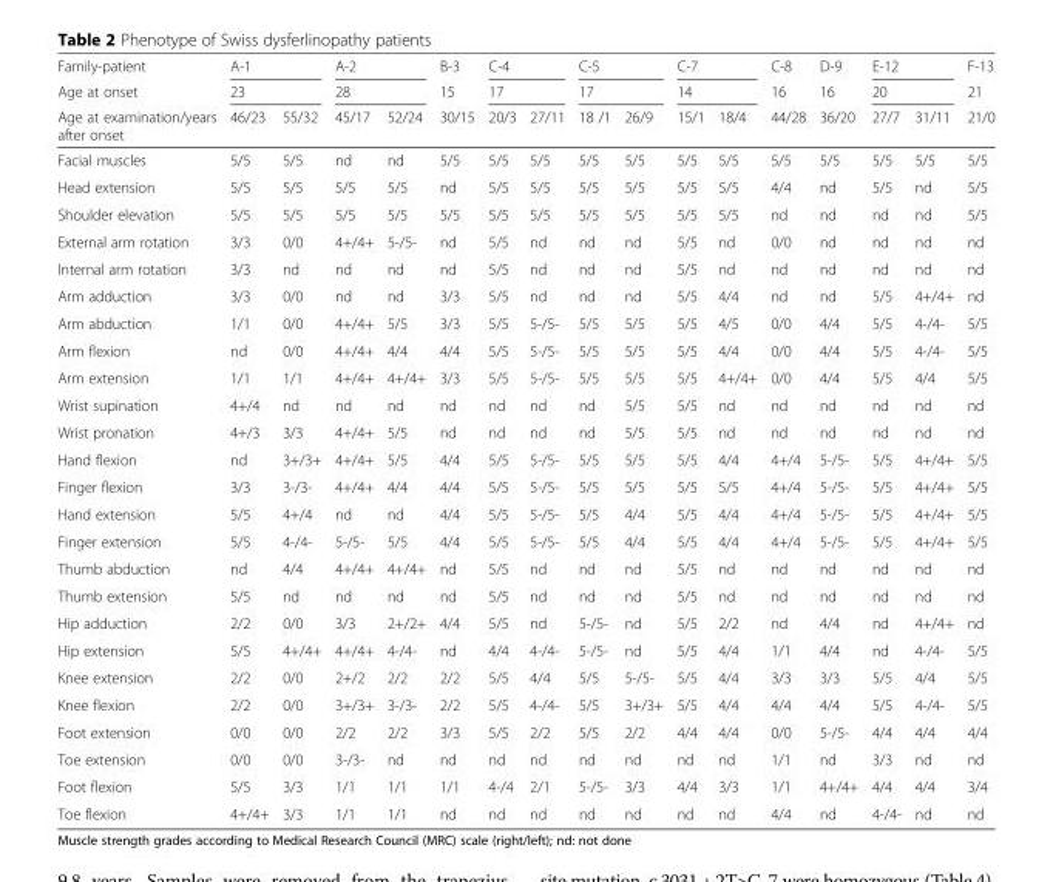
<table><thead><tr><td rowspan="3">Family-patient Age at onset Age at examination/years after onset</td><td rowspan="2" colspan="2">A-1 23</td><td rowspan="2" colspan="2">A-2 28</td><td rowspan="3">B-3 15 30/15</td><td rowspan="2" colspan="2">C-4 17</td><td rowspan="2" colspan="2">C-5 17</td><td rowspan="2" colspan="2">C-7 14</td><td rowspan="3">C-8 16 44/28</td><td rowspan="3">D-9 16 36/20</td><td rowspan="2" colspan="2">E-12 20</td><td rowspan="3">F-13 21 21/0</td></tr><tr></tr><tr><td>46/23</td><td>55/32</td><td>45/17</td><td>52/24</td><td>20/3</td><td>27/11</td><td>18 /1</td><td>26/9</td><td>15/1</td><td>18/4</td><td>27/7</td><td>31/11</td></tr></thead><tbody><tr><td>Facial muscles</td><td>5/5</td><td>5/5</td><td>nd</td><td>nd</td><td>5/5</td><td>5/5</td><td>5/5</td><td>5/5</td><td>5/5</td><td>5/5</td><td>5/5</td><td>5/5</td><td>5/5</td><td>5/5</td><td>5/5</td><td>5/5</td></tr><tr><td>Head extension</td><td>5/5</td><td>5/5</td><td>5/5</td><td>5/5</td><td>nd</td><td>5/5</td><td>5/5</td><td>5/5</td><td>5/5</td><td>5/5</td><td>5/5</td><td>4/4</td><td>nd</td><td>5/5</td><td>nd</td><td>5/5</td></tr><tr><td>Shoulder elevation</td><td>5/5</td><td>5/5</td><td>5/5</td><td>5/5</td><td>5/5</td><td>5/5</td><td>5/5</td><td>5/5</td><td>5/5</td><td>5/5</td><td>5/5</td><td>nd</td><td>nd</td><td>nd</td><td>nd</td><td>5/5</td></tr><tr><td>External arm rotation</td><td>3/3</td><td>0/0</td><td>4+/4+</td><td>5-/5-</td><td>nd</td><td>5/5</td><td>nd</td><td>nd</td><td>nd</td><td>5/5</td><td>nd</td><td>0/0</td><td>nd</td><td>nd</td><td>nd</td><td>nd</td></tr><tr><td>Internal arm rotation</td><td>3/3</td><td>nd</td><td>nd</td><td>nd</td><td>nd</td><td>5/5</td><td>nd</td><td>nd</td><td>nd</td><td>5/5</td><td>nd</td><td>nd</td><td>nd</td><td>nd</td><td>nd</td><td>nd</td></tr><tr><td>Arm adduction</td><td>3/3</td><td>0/0</td><td>nd</td><td>nd</td><td>3/3</td><td>5/5</td><td>nd</td><td>nd</td><td>nd</td><td>5/5</td><td>4/4</td><td>nd</td><td>nd</td><td>5/5</td><td>4+/4+</td><td>nd</td></tr><tr><td>Arm abduction</td><td>1/1</td><td>0/0</td><td>4+/4+</td><td>5/5</td><td>3/3</td><td>5/5</td><td>5-/5-</td><td>5/5</td><td>5/5</td><td>5/5</td><td>4/5</td><td>0/0</td><td>4/4</td><td>5/5</td><td>4-/4-</td><td>5/5</td></tr><tr><td>Arm flexion</td><td>nd</td><td>0/0</td><td>4+/4+</td><td>4/4</td><td>4/4</td><td>5/5</td><td>5-/5-</td><td>5/5</td><td>5/5</td><td>5/5</td><td>4/4</td><td>0/0</td><td>4/4</td><td>5/5</td><td>4-/4-</td><td>5/5</td></tr><tr><td>Arm extension</td><td>1/1</td><td>1/1</td><td>4+/4+</td><td>4+/4+</td><td>3/3</td><td>5/5</td><td>5-/5-</td><td>5/5</td><td>5/5</td><td>5/5</td><td>4+/4+</td><td>0/0</td><td>4/4</td><td>5/5</td><td>4/4</td><td>5/5</td></tr><tr><td>Wrist supination</td><td>4+/4</td><td>nd</td><td>nd</td><td>nd</td><td>nd</td><td>nd</td><td>nd</td><td>nd</td><td>5/5</td><td>5/5</td><td>nd</td><td>nd</td><td>nd</td><td>nd</td><td>nd</td><td>nd</td></tr><tr><td>Wrist pronation</td><td>4+/3</td><td>3/3</td><td>4+/4+</td><td>5/5</td><td>nd</td><td>nd</td><td>nd</td><td>nd</td><td>5/5</td><td>5/5</td><td>nd</td><td>nd</td><td>nd</td><td>nd</td><td>nd</td><td>nd</td></tr><tr><td>Hand flexion</td><td>nd</td><td>3+/3+</td><td>4+/4+</td><td>5/5</td><td>4/4</td><td>5/5</td><td>5-/5-</td><td>5/5</td><td>5/5</td><td>5/5</td><td>4/4</td><td>4+/4</td><td>5-/5-</td><td>5/5</td><td>4+/4+</td><td>5/5</td></tr><tr><td>Finger flexion</td><td>3/3</td><td>3-/3-</td><td>4+/4+</td><td>4/4</td><td>4/4</td><td>5/5</td><td>5-/5-</td><td>5/5</td><td>5/5</td><td>5/5</td><td>5/5</td><td>4+/4</td><td>5-/5-</td><td>5/5</td><td>4+/4+</td><td>5/5</td></tr><tr><td>Hand extension</td><td>5/5</td><td>4+/4</td><td>nd</td><td>nd</td><td>4/4</td><td>5/5</td><td>5-/5-</td><td>5/5</td><td>4/4</td><td>5/5</td><td>4/4</td><td>4+/4</td><td>5-/5-</td><td>5/5</td><td>4+/4+</td><td>5/5</td></tr><tr><td>Finger extension</td><td>5/5</td><td>4-/4-</td><td>5-/5-</td><td>5/5</td><td>4/4</td><td>5/5</td><td>5-/5-</td><td>5/5</td><td>4/4</td><td>5/5</td><td>4/4</td><td>4+/4</td><td>5-/5-</td><td>5/5</td><td>4+/4+</td><td>5/5</td></tr><tr><td>Thumb abduction</td><td>nd</td><td>4/4</td><td>4+/4+</td><td>4+/4+</td><td>nd</td><td>5/5</td><td>nd</td><td>nd</td><td>nd</td><td>5/5</td><td>nd</td><td>nd</td><td>nd</td><td>nd</td><td>nd</td><td>nd</td></tr><tr><td>Thumb extension</td><td>5/5</td><td>nd</td><td>nd</td><td>nd</td><td>nd</td><td>5/5</td><td>nd</td><td>nd</td><td>nd</td><td>5/5</td><td>nd</td><td>nd</td><td>nd</td><td>nd</td><td>nd</td><td>nd</td></tr><tr><td>Hip adduction</td><td>2/2</td><td>0/0</td><td>3/3</td><td>2+/2+</td><td>4/4</td><td>5/5</td><td>nd</td><td>5-/5-</td><td>nd</td><td>5/5</td><td>2/2</td><td>nd</td><td>4/4</td><td>nd</td><td>4+/4+</td><td>nd</td></tr><tr><td>Hip extension</td><td>5/5</td><td>4+/4+</td><td>4+/4+</td><td>4-/4-</td><td>nd</td><td>4/4</td><td>4-/4-</td><td>5-/5-</td><td>nd</td><td>5/5</td><td>4/4</td><td>1/1</td><td>4/4</td><td>nd</td><td>4-/4-</td><td>5/5</td></tr><tr><td>Knee extension</td><td>2/2</td><td>0/0</td><td>2+/2</td><td>2/2</td><td>2/2</td><td>5/5</td><td>4/4</td><td>5/5</td><td>5-/5-</td><td>5/5</td><td>4/4</td><td>3/3</td><td>3/3</td><td>5/5</td><td>4/4</td><td>5/5</td></tr><tr><td>Knee flexion</td><td>2/2</td><td>0/0</td><td>3+/3+</td><td>3-/3-</td><td>2/2</td><td>5/5</td><td>4-/4-</td><td>5/5</td><td>3+/3+</td><td>5/5</td><td>4/4</td><td>4/4</td><td>4/4</td><td>5/5</td><td>4-/4-</td><td>5/5</td></tr><tr><td>Foot extension</td><td>0/0</td><td>0/0</td><td>2/2</td><td>2/2</td><td>3/3</td><td>5/5</td><td>2/2</td><td>5/5</td><td>2/2</td><td>4/4</td><td>4/4</td><td>0/0</td><td>5-/5-</td><td>4/4</td><td>4/4</td><td>4/4</td></tr><tr><td>Toe extension</td><td>0/0</td><td>0/0</td><td>3-/3-</td><td>nd</td><td>nd</td><td>nd</td><td>nd</td><td>nd</td><td>nd</td><td>nd</td><td>nd</td><td>1/1</td><td>nd</td><td>3/3</td><td>nd</td><td>nd</td></tr><tr><td>Foot flexion</td><td>5/5</td><td>3/3</td><td>1/1</td><td>1/1</td><td>1/1</td><td>4-/4</td><td>2/1</td><td>5-/5-</td><td>3/3</td><td>4/4</td><td>3/3</td><td>1/1</td><td>4+/4+</td><td>4/4</td><td>4/4</td><td>3/4</td></tr><tr><td>Toe flexion</td><td>4+/4+</td><td>3/3</td><td>1/1</td><td>1/1</td><td>nd</td><td>nd</td><td>nd</td><td>nd</td><td>nd</td><td>nd</td><td>nd</td><td>4/4</td><td>nd</td><td>4-/4-</td><td>nd</td><td>nd</td></tr></tbody></table>